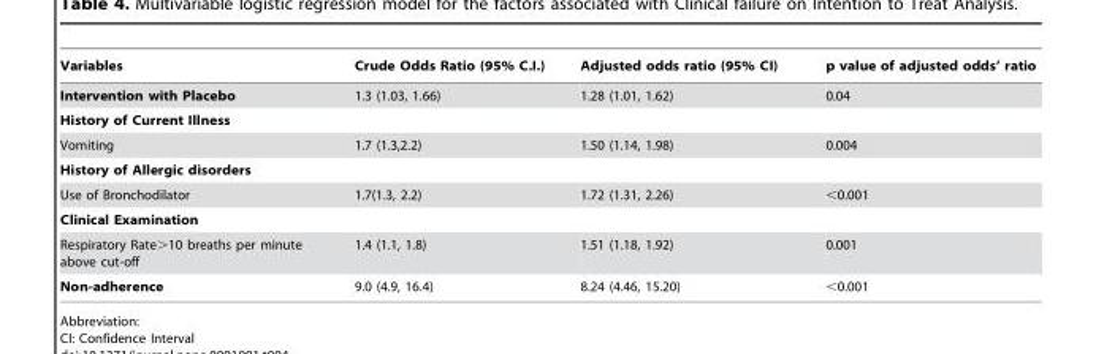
<table><thead><tr><td>Variables</td><td>Crude Odds Ratio (95% C.I.)</td><td>Adjusted odds ratio (95% CI)</td><td>p value of adjusted odds’ ratio</td></tr></thead><tbody><tr><td>Intervention with Placebo</td><td>1.3 (1.03, 1.66)</td><td>1.28 (1.01, 1.62)</td><td>0.04</td></tr><tr><td colspan="4">History of Current Illness</td></tr><tr><td>Vomiting</td><td>1.7 (1.3,2.2)</td><td>1.50 (1.14, 1.98)</td><td>0.004</td></tr><tr><td colspan="4">History of Allergic disorders</td></tr><tr><td>Use of Bronchodilator</td><td>1.7(1.3, 2.2)</td><td>1.72 (1.31, 2.26)</td><td>&lt;0.001</td></tr><tr><td colspan="4">Clinical Examination</td></tr><tr><td>Respiratory Rate&gt;10 breaths per minute above cut-off</td><td>1.4 (1.1, 1.8)</td><td>1.51 (1.18, 1.92)</td><td>0.001</td></tr><tr><td>Non-adherence</td><td>9.0 (4.9, 16.4)</td><td>8.24 (4.46, 15.20)</td><td>&lt;0.001</td></tr></tbody></table>